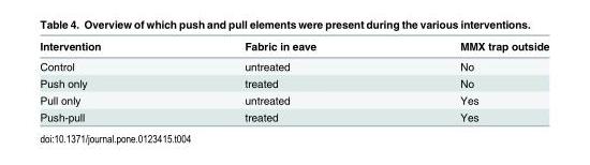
<table><thead><tr><td>Intervention</td><td>Fabric in eave</td><td>MMX trap outside</td></tr></thead><tbody><tr><td>Control</td><td>untreated</td><td>No</td></tr><tr><td>Push only</td><td>treated</td><td>No</td></tr><tr><td>Pull only</td><td>untreated</td><td>Yes</td></tr><tr><td>Push-pull</td><td>treated</td><td>Yes</td></tr></tbody></table>